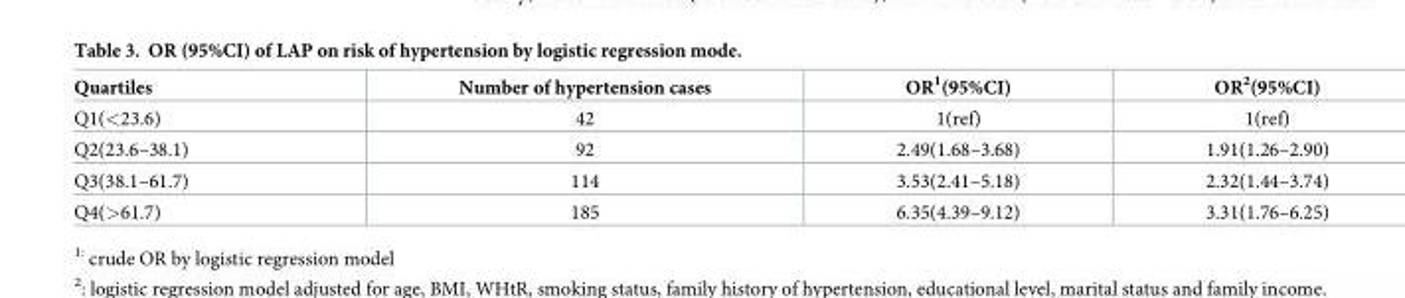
<table><thead><tr><td>Quartiles</td><td>Number of hypertension cases</td><td>OR<sup>1</sup>(95%CI)</td><td>OR<sup>2</sup>(95%CI)</td></tr></thead><tbody><tr><td>Q1(&lt;23.6)</td><td>42</td><td>1(ref)</td><td>1(ref)</td></tr><tr><td>Q2(23.6–38.1)</td><td>92</td><td>2.49(1.68–3.68)</td><td>1.91(1.26–2.90)</td></tr><tr><td>Q3(38.1–61.7)</td><td>114</td><td>3.53(2.41–5.18)</td><td>2.32(1.44–3.74)</td></tr><tr><td>Q4(&gt;61.7)</td><td>185</td><td>6.35(4.39–9.12)</td><td>3.31(1.76–6.25)</td></tr></tbody></table>